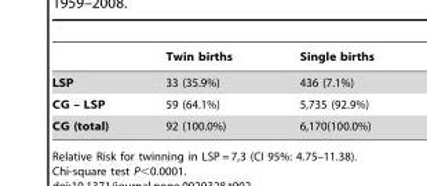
<table><thead><tr><td></td><td>Twin births</td><td>Single births</td></tr></thead><tbody><tr><td>LSP</td><td>33 (35.9%)</td><td>436 (7.1%)</td></tr><tr><td>CG – LSP</td><td>59 (64.1%)</td><td>5,735 (92.9%)</td></tr><tr><td>CG (total)</td><td>92 (100.0%)</td><td>6,170(100.0%)</td></tr></tbody></table>